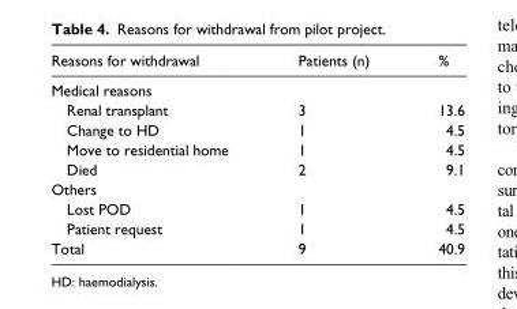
<table><thead><tr><td>Reasons for withdrawal</td><td>Patients (n)</td><td>%</td></tr></thead><tbody><tr><td colspan="3">Medical reasons</td></tr><tr><td>Renal transplant</td><td>3</td><td>13.6</td></tr><tr><td>Change to HD</td><td>1</td><td>4.5</td></tr><tr><td>Move to residential home</td><td>1</td><td>4.5</td></tr><tr><td>Died</td><td>2</td><td>9.1</td></tr><tr><td colspan="3">Others</td></tr><tr><td>Lost POD</td><td>1</td><td>4.5</td></tr><tr><td>Patient request</td><td>1</td><td>4.5</td></tr><tr><td>Total</td><td>9</td><td>40.9</td></tr></tbody></table>